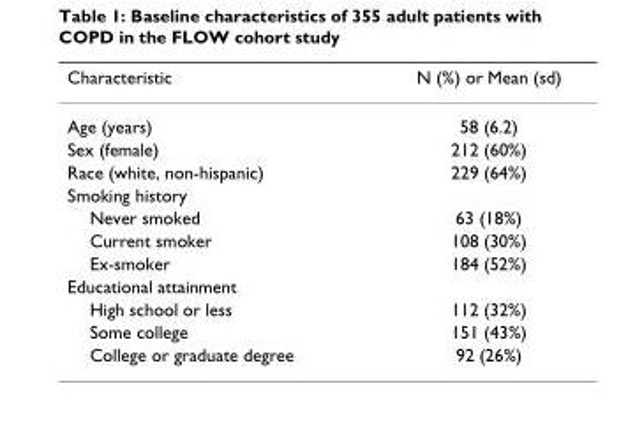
<table><thead><tr><td>Characteristic</td><td>N (%) or Mean (sd)</td></tr></thead><tbody><tr><td>Age (years)</td><td>58 (6.2)</td></tr><tr><td>Sex (female)</td><td>212 (60%)</td></tr><tr><td>Race (white, non-hispanic)</td><td>229 (64%)</td></tr><tr><td colspan="2">Smoking history</td></tr><tr><td>Never smoked</td><td>63 (18%)</td></tr><tr><td>Current smoker</td><td>108 (30%)</td></tr><tr><td>Ex-smoker</td><td>184 (52%)</td></tr><tr><td colspan="2">Educational attainment</td></tr><tr><td>High school or less</td><td>112 (32%)</td></tr><tr><td>Some college</td><td>151 (43%)</td></tr><tr><td>College or graduate degree</td><td>92 (26%)</td></tr></tbody></table>